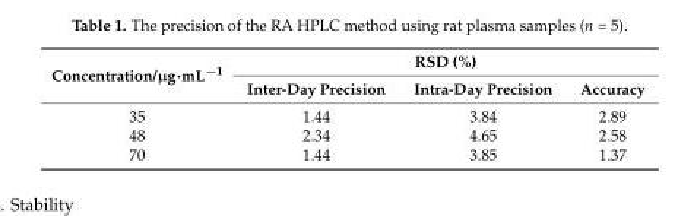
<table><thead><tr><td rowspan="2">Concentration/µg·mL<sup>−1</sup></td><td colspan="3">RSD (%)</td></tr><tr><td>Inter-Day Precision</td><td>Intra-Day Precision</td><td>Accuracy</td></tr></thead><tbody><tr><td>35</td><td>1.44</td><td>3.84</td><td>2.89</td></tr><tr><td>48</td><td>2.34</td><td>4.65</td><td>2.58</td></tr><tr><td>70</td><td>1.44</td><td>3.85</td><td>1.37</td></tr></tbody></table>